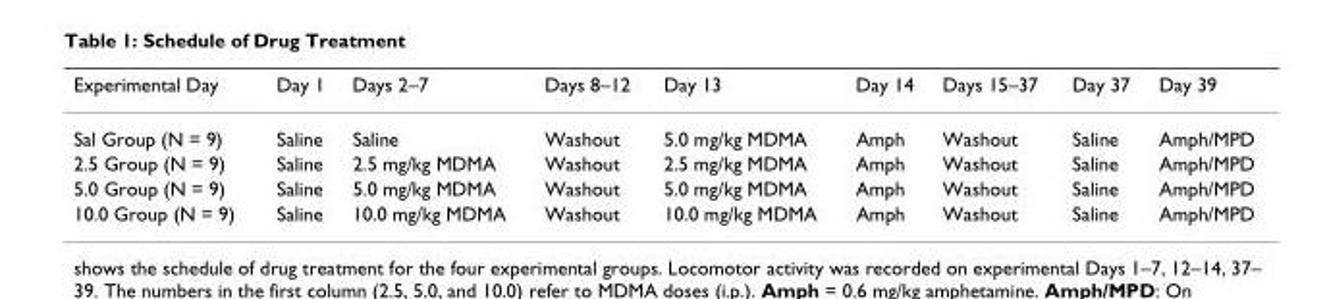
<table><thead><tr><td>Experimental Day</td><td>Day 1</td><td>Days 2–7</td><td>Days 8–12</td><td>Day 13</td><td>Day 14</td><td>Days 15–37</td><td>Day 37</td><td>Day 39</td></tr></thead><tbody><tr><td>Sal Group (N = 9)</td><td>Saline</td><td>Saline</td><td>Washout</td><td>5.0 mg/kg MDMA</td><td>Amph</td><td>Washout</td><td>Saline</td><td>Amph/MPD</td></tr><tr><td>2.5 Group (N = 9)</td><td>Saline</td><td>2.5 mg/kg MDMA</td><td>Washout</td><td>2.5 mg/kg MDMA</td><td>Amph</td><td>Washout</td><td>Saline</td><td>Amph/MPD</td></tr><tr><td>5.0 Group (N = 9)</td><td>Saline</td><td>5.0 mg/kg MDMA</td><td>Washout</td><td>5.0 mg/kg MDMA</td><td>Amph</td><td>Washout</td><td>Saline</td><td>Amph/MPD</td></tr><tr><td>10.0 Group (N = 9)</td><td>Saline</td><td>10.0 mg/kg MDMA</td><td>Washout</td><td>10.0 mg/kg MDMA</td><td>Amph</td><td>Washout</td><td>Saline</td><td>Amph/MPD</td></tr></tbody></table>